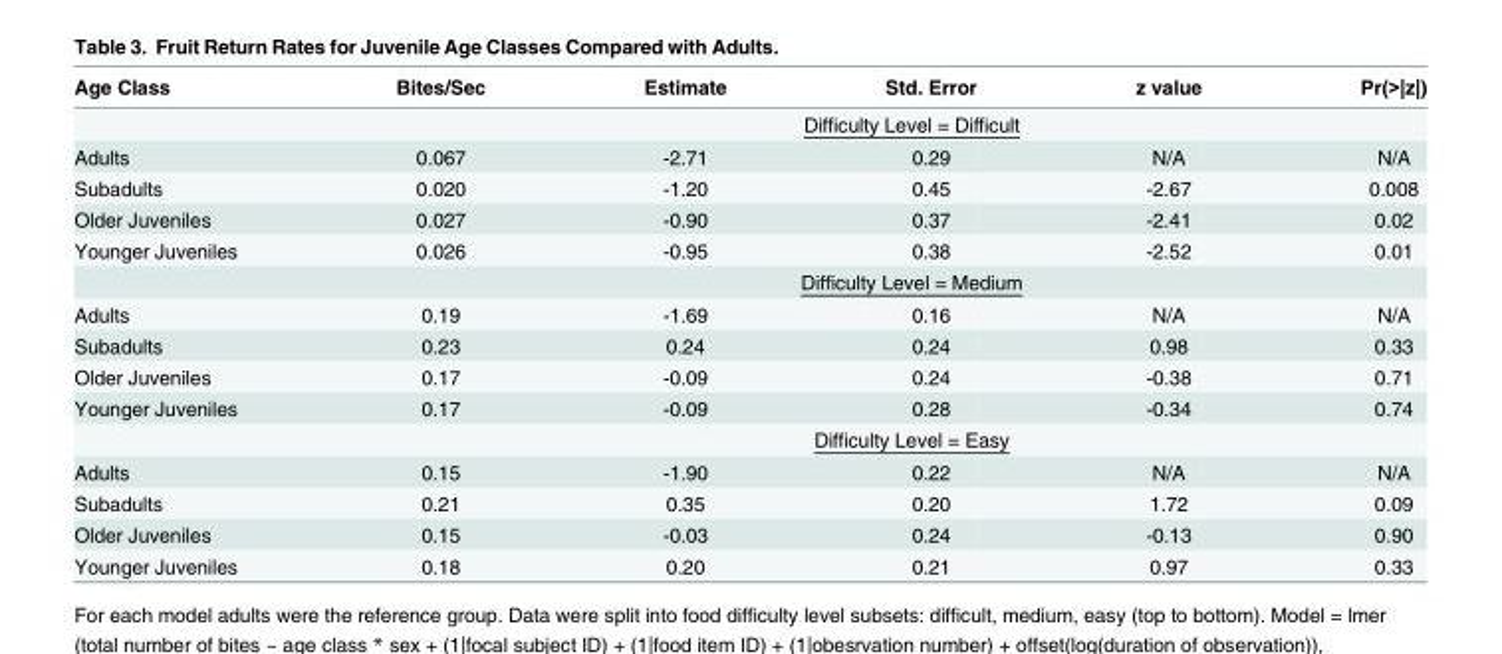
<table><thead><tr><td>Age Class</td><td>Bites/Sec</td><td>Estimate</td><td>Std. Error</td><td>z value</td><td>Pr(&gt;|z|)</td></tr></thead><tbody><tr><td></td><td colspan="5">Difficulty Level = Difficult</td></tr><tr><td>Adults</td><td>0.067</td><td>-2.71</td><td>0.29</td><td>N/A</td><td>N/A</td></tr><tr><td>Subadults</td><td>0.020</td><td>-1.20</td><td>0.45</td><td>-2.67</td><td>0.008</td></tr><tr><td>Older Juveniles</td><td>0.027</td><td>-0.90</td><td>0.37</td><td>-2.41</td><td>0.02</td></tr><tr><td rowspan="2">Younger Juveniles</td><td>0.026</td><td>-0.95</td><td>0.38</td><td>-2.52</td><td>0.01</td></tr><tr><td colspan="5">Difficulty Level = Medium</td></tr><tr><td>Adults</td><td>0.19</td><td>-1.69</td><td>0.16</td><td>N/A</td><td>N/A</td></tr><tr><td>Subadults</td><td>0.23</td><td>0.24</td><td>0.24</td><td>0.98</td><td>0.33</td></tr><tr><td>Older Juveniles</td><td>0.17</td><td>-0.09</td><td>0.24</td><td>-0.38</td><td>0.71</td></tr><tr><td rowspan="2">Younger Juveniles</td><td>0.17</td><td>-0.09</td><td>0.28</td><td>-0.34</td><td>0.74</td></tr><tr><td colspan="5">Difficulty Level = Easy</td></tr><tr><td>Adults</td><td>0.15</td><td>-1.90</td><td>0.22</td><td>N/A</td><td>N/A</td></tr><tr><td>Subadults</td><td>0.21</td><td>0.35</td><td>0.20</td><td>1.72</td><td>0.09</td></tr><tr><td>Older Juveniles</td><td>0.15</td><td>-0.03</td><td>0.24</td><td>-0.13</td><td>0.90</td></tr><tr><td>Younger Juveniles</td><td>0.18</td><td>0.20</td><td>0.21</td><td>0.97</td><td>0.33</td></tr></tbody></table>